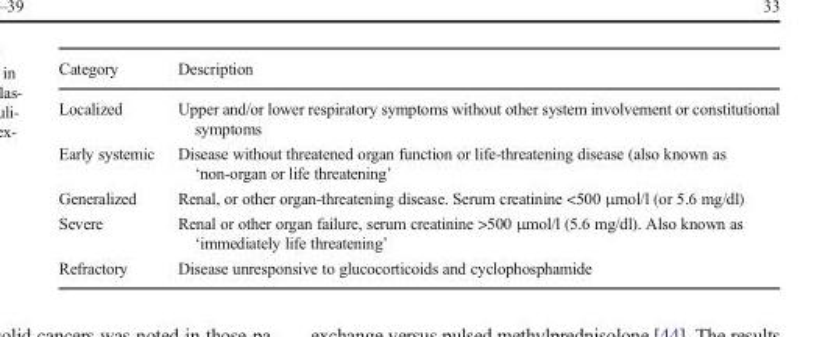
<table><thead><tr><td>Category</td><td>Description</td></tr></thead><tbody><tr><td>Localized</td><td>Upper and/or lower respiratory symptoms without other system involvement or constitutional symptoms</td></tr><tr><td>Early systemic</td><td>Disease without threatened organ function or life-threatening disease (also known as ‘non-organ or life threatening’</td></tr><tr><td>Generalized</td><td>Renal, or other organ-threatening disease. Serum creatinine &lt;500 μmol/l (or 5.6 mg/dl)</td></tr><tr><td>Severe</td><td>Renal or other organ failure, serum creatinine &gt;500 μmol/l (5.6 mg/dl). Also known as ‘immediately life threatening’</td></tr><tr><td>Refractory</td><td>Disease unresponsive to glucocorticoids and cyclophosphamide</td></tr></tbody></table>